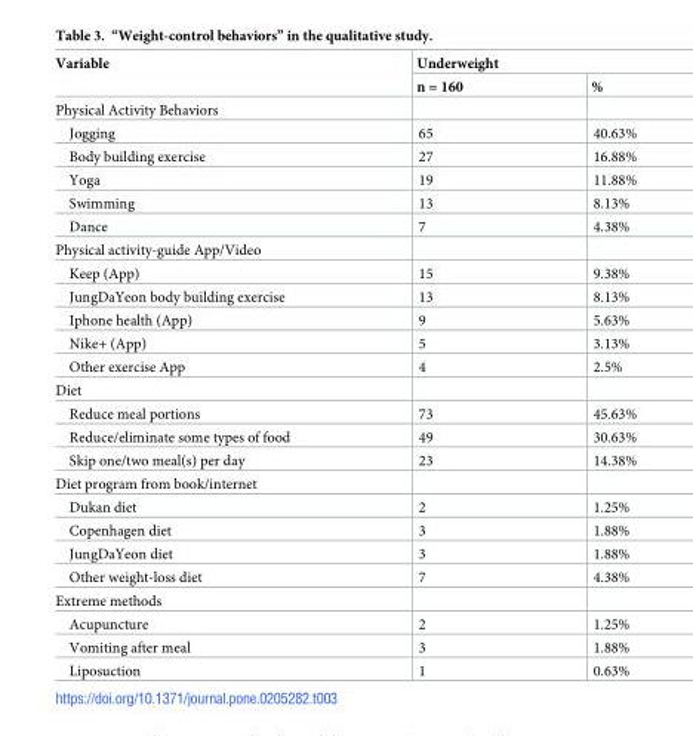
<table><thead><tr><td rowspan="2">Variable</td><td colspan="2">Underweight</td></tr><tr><td>n = 160</td><td>%</td></tr></thead><tbody><tr><td colspan="3">Physical Activity Behaviors</td></tr><tr><td>Jogging</td><td>65</td><td>40.63%</td></tr><tr><td>Body building exercise</td><td>27</td><td>16.88%</td></tr><tr><td>Yoga</td><td>19</td><td>11.88%</td></tr><tr><td>Swimming</td><td>13</td><td>8.13%</td></tr><tr><td>Dance</td><td>7</td><td>4.38%</td></tr><tr><td colspan="3">Physical activity-guide App/Video</td></tr><tr><td>Keep (App)</td><td>15</td><td>9.38%</td></tr><tr><td>JungDaYeon body building exercise</td><td>13</td><td>8.13%</td></tr><tr><td>Iphone health (App)</td><td>9</td><td>5.63%</td></tr><tr><td>Nike+ (App)</td><td>5</td><td>3.13%</td></tr><tr><td>Other exercise App</td><td>4</td><td>2.5%</td></tr><tr><td colspan="3">Diet</td></tr><tr><td>Reduce meal portions</td><td>73</td><td>45.63%</td></tr><tr><td>Reduce/eliminate some types of food</td><td>49</td><td>30.63%</td></tr><tr><td>Skip one/two meal(s) per day</td><td>23</td><td>14.38%</td></tr><tr><td colspan="3">Diet program from book/internet</td></tr><tr><td>Dukan diet</td><td>2</td><td>1.25%</td></tr><tr><td>Copenhagen diet</td><td>3</td><td>1.88%</td></tr><tr><td>JungDaYeon diet</td><td>3</td><td>1.88%</td></tr><tr><td>Other weight-loss diet</td><td>7</td><td>4.38%</td></tr><tr><td colspan="3">Extreme methods</td></tr><tr><td>Acupuncture</td><td>2</td><td>1.25%</td></tr><tr><td>Vomiting after meal</td><td>3</td><td>1.88%</td></tr><tr><td>Liposuction</td><td>1</td><td>0.63%</td></tr></tbody></table>